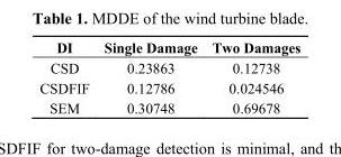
<table><thead><tr><td>DI</td><td>Single Damage</td><td>Two Damages</td></tr></thead><tbody><tr><td>CSD</td><td>0.23863</td><td>0.12738</td></tr><tr><td>CSDFIF</td><td>0.12786</td><td>0.024546</td></tr><tr><td>SEM</td><td>0.30748</td><td>0.69678</td></tr></tbody></table>